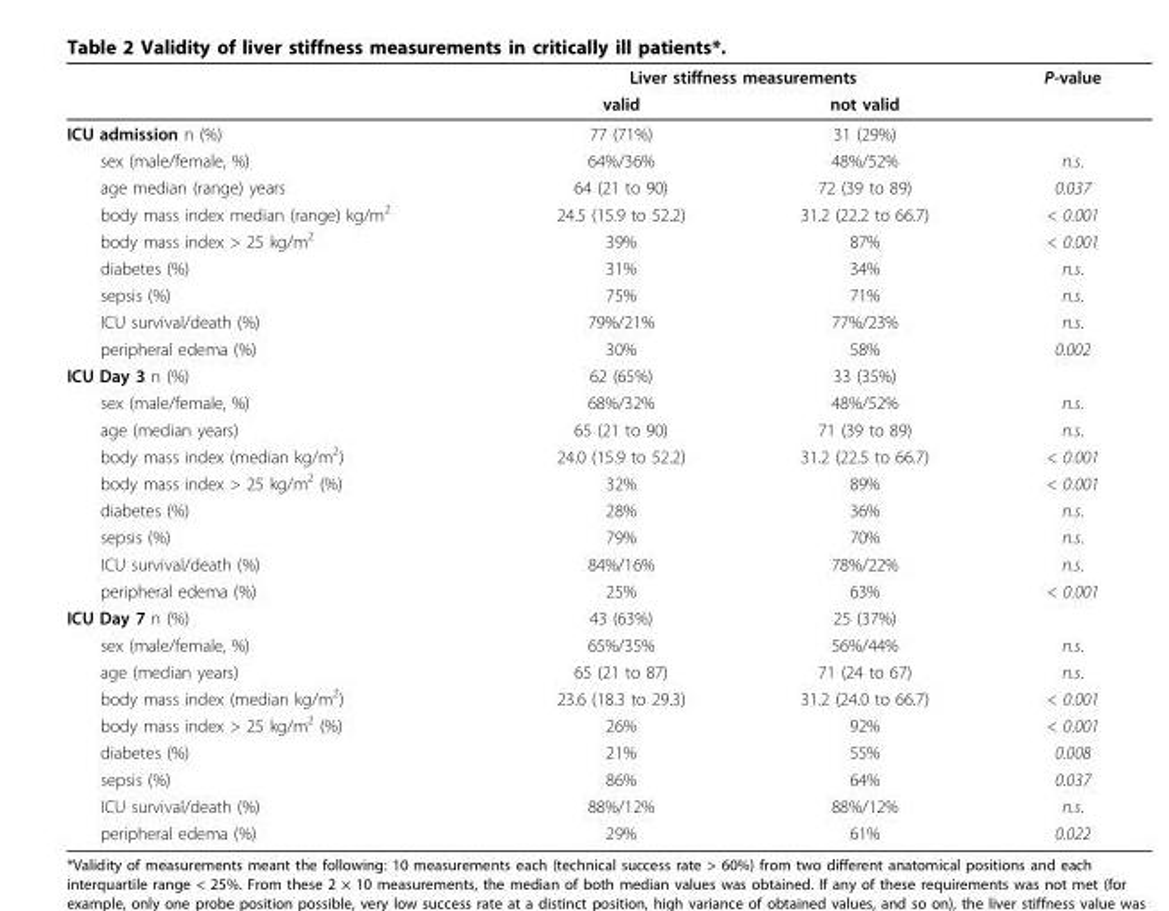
<table><thead><tr><td rowspan="2"></td><td colspan="2">Liver stiffness measurements</td><td rowspan="2">P-value</td></tr><tr><td>valid</td><td>not valid</td></tr></thead><tbody><tr><td>ICU admission n (%)</td><td>77 (71%)</td><td>31 (29%)</td><td></td></tr><tr><td>sex (male/female, %)</td><td>64%/36%</td><td>48%/52%</td><td>n.s.</td></tr><tr><td>age median (range) years</td><td>64 (21 to 90)</td><td>72 (39 to 89)</td><td>0.037</td></tr><tr><td>body mass index median (range) kg/m<sup>2</sup></td><td>24.5 (15.9 to 52.2)</td><td>31.2 (22.2 to 66.7)</td><td>&lt; 0.001</td></tr><tr><td>body mass index &gt; 25 kg/m<sup>2</sup></td><td>39%</td><td>87%</td><td>&lt; 0.001</td></tr><tr><td>diabetes (%)</td><td>31%</td><td>34%</td><td>n.s.</td></tr><tr><td>sepsis (%)</td><td>75%</td><td>71%</td><td>n.s.</td></tr><tr><td>ICU survival/death (%)</td><td>79%/21%</td><td>77%/23%</td><td>n.s.</td></tr><tr><td>peripheral edema (%)</td><td>30%</td><td>58%</td><td>0.002</td></tr><tr><td>ICU Day 3 n (%)</td><td>62 (65%)</td><td>33 (35%)</td><td></td></tr><tr><td>sex (male/female, %)</td><td>68%/32%</td><td>48%/52%</td><td>n.s.</td></tr><tr><td>age (median years)</td><td>65 (21 to 90)</td><td>71 (39 to 89)</td><td>n.s.</td></tr><tr><td>body mass index (median kg/m<sup>2</sup>)</td><td>24.0 (15.9 to 52.2)</td><td>31.2 (22.5 to 66.7)</td><td>&lt; 0.001</td></tr><tr><td>body mass index &gt; 25 kg/m<sup>2</sup> (%)</td><td>32%</td><td>89%</td><td>&lt; 0.001</td></tr><tr><td>diabetes (%)</td><td>28%</td><td>36%</td><td>n.s.</td></tr><tr><td>sepsis (%)</td><td>79%</td><td>70%</td><td>n.s.</td></tr><tr><td>ICU survival/death (%)</td><td>84%/16%</td><td>78%/22%</td><td>n.s.</td></tr><tr><td>peripheral edema (%)</td><td>25%</td><td>63%</td><td>&lt; 0.001</td></tr><tr><td>ICU Day 7 n (%)</td><td>43 (63%)</td><td>25 (37%)</td><td></td></tr><tr><td>sex (male/female, %)</td><td>65%/35%</td><td>56%/44%</td><td>n.s.</td></tr><tr><td>age (median years)</td><td>65 (21 to 87)</td><td>71 (24 to 67)</td><td>n.s.</td></tr><tr><td>body mass index (median kg/m<sup>2</sup>)</td><td>23.6 (18.3 to 29.3)</td><td>31.2 (24.0 to 66.7)</td><td>&lt; 0.001</td></tr><tr><td>body mass index &gt; 25 kg/m<sup>2</sup> (%)</td><td>26%</td><td>92%</td><td>&lt; 0.001</td></tr><tr><td>diabetes (%)</td><td>21%</td><td>55%</td><td>0.008</td></tr><tr><td>sepsis (%)</td><td>86%</td><td>64%</td><td>0.037</td></tr><tr><td>ICU survival/death (%)</td><td>88%/12%</td><td>88%/12%</td><td>n.s.</td></tr><tr><td>peripheral edema (%)</td><td>29%</td><td>61%</td><td>0.022</td></tr></tbody></table>